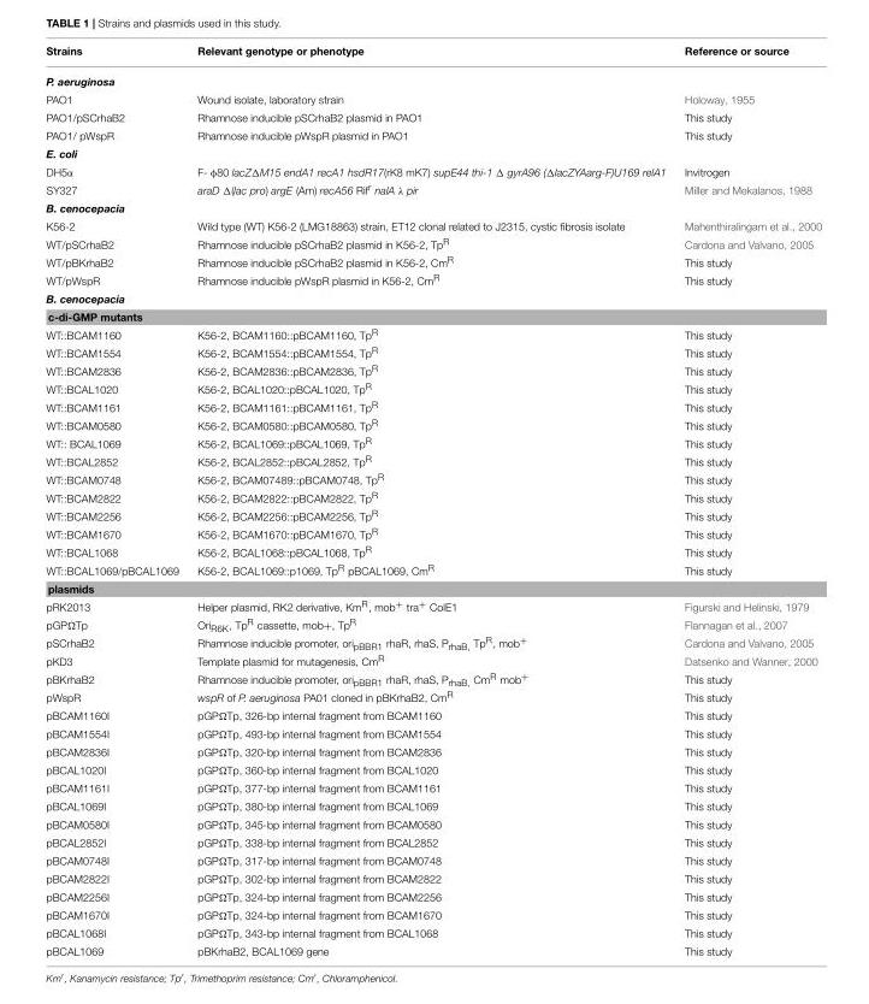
<table><thead><tr><td>Strains</td><td>Relevant genotype or phenotype</td><td>Reference or source</td></tr></thead><tbody><tr><td colspan="3">P. aeruginosa</td></tr><tr><td>PAO1</td><td>Wound isolate, laboratory strain</td><td>Holoway, 1955</td></tr><tr><td>PAO1/pSCrhaB2</td><td>Rhamnose inducible pSCrhaB2 plasmid in PAO1</td><td>This study</td></tr><tr><td>PAO1/ pWspR</td><td>Rhamnose inducible pWspR plasmid in PAO1</td><td>This study</td></tr><tr><td colspan="3">E. coli</td></tr><tr><td>DH5α</td><td>F- φ80 lacZΔM15 endA1 recA1 hsdR17(rK8 mK7) supE44 thi-1 Δ gyrA96 (ΔlacZYAarg-F)U169 relA1</td><td>Invitrogen</td></tr><tr><td>SY327</td><td>araD Δ(lac pro) argE (Am) recA56 Rif<sup>r</sup> nalA λ pir</td><td>Miller and Mekalanos, 1988</td></tr><tr><td colspan="3">B. cenocepacia</td></tr><tr><td>K56-2</td><td>Wild type (WT) K56-2 (LMG18863) strain, ET12 clonal related to J2315, cystic fibrosis isolate</td><td>Mahenthiralingam et al., 2000</td></tr><tr><td>WT/pSCrhaB2</td><td>Rhamnose inducible pSCrhaB2 plasmid in K56-2, Tp<sup>R</sup></td><td>Cardona and Valvano, 2005</td></tr><tr><td>WT/pBKrhaB2</td><td>Rhamnose inducible pSCrhaB2 plasmid in K56-2, Cm<sup>R</sup></td><td>This study</td></tr><tr><td>WT/pWspR</td><td>Rhamnose inducible pWspR plasmid in K56-2, Cm<sup>R</sup></td><td>This study</td></tr><tr><td colspan="3">B. cenocepacia</td></tr><tr><td colspan="3">c-di-GMP mutants</td></tr><tr><td>WT::BCAM1160</td><td>K56-2, BCAM1160::pBCAM1160, Tp<sup>R</sup></td><td>This study</td></tr><tr><td>WT::BCAM1554</td><td>K56-2, BCAM1554::pBCAM1554, Tp<sup>R</sup></td><td>This study</td></tr><tr><td>WT::BCAM2836</td><td>K56-2, BCAM2836::pBCAM2836, Tp<sup>R</sup></td><td>This study</td></tr><tr><td>WT::BCAL1020</td><td>K56-2, BCAL1020::pBCAL1020, Tp<sup>R</sup></td><td>This study</td></tr><tr><td>WT::BCAM1161</td><td>K56-2, BCAM1161::pBCAM1161, Tp<sup>R</sup></td><td>This study</td></tr><tr><td>WT::BCAM0580</td><td>K56-2, BCAM0580::pBCAM0580, Tp<sup>R</sup></td><td>This study</td></tr><tr><td>WT:: BCAL1069</td><td>K56-2, BCAL1069::pBCAL1069, Tp<sup>R</sup></td><td>This study</td></tr><tr><td>WT::BCAL2852</td><td>K56-2, BCAL2852::pBCAL2852, Tp<sup>R</sup></td><td>This study</td></tr><tr><td>WT::BCAM0748</td><td>K56-2, BCAM07489::pBCAM0748, Tp<sup>R</sup></td><td>This study</td></tr><tr><td>WT::BCAM2822</td><td>K56-2, BCAM2822::pBCAM2822, Tp<sup>R</sup></td><td>This study</td></tr><tr><td>WT::BCAM2256</td><td>K56-2, BCAM2256::pBCAM2256, Tp<sup>R</sup></td><td>This study</td></tr><tr><td>WT::BCAM1670</td><td>K56-2, BCAM1670::pBCAM1670, Tp<sup>R</sup></td><td>This study</td></tr><tr><td>WT::BCAL1068</td><td>K56-2, BCAL1068::pBCAL1068, Tp<sup>R</sup></td><td>This study</td></tr><tr><td>WT::BCAL1069/pBCAL1069</td><td>K56-2, BCAL1069::p1069, Tp<sup>R</sup> pBCAL1069, Cm<sup>R</sup></td><td>This study</td></tr><tr><td colspan="3">plasmids</td></tr><tr><td>pRK2013</td><td>Helper plasmid, RK2 derivative, Km<sup>R</sup>, mob<sup>+</sup> tra<sup>+</sup> ColE1</td><td>Figurski and Helinski, 1979</td></tr><tr><td>pGPΩTp</td><td>Ori<sub>R6K</sub>, Tp<sup>R</sup> cassette, mob+, Tp<sup>R</sup></td><td>Flannagan et al., 2007</td></tr><tr><td>pSCrhaB2</td><td>Rhamnose inducible promoter, ori<sub>pBBR1</sub> rhaR, rhaS, P<sub>rhaB</sub>, Tp<sup>R</sup>, mob<sup>+</sup></td><td>Cardona and Valvano, 2005</td></tr><tr><td>pKD3</td><td>Template plasmid for mutagenesis, Cm<sup>R</sup></td><td>Datsenko and Wanner, 2000</td></tr><tr><td>pBKrhaB2</td><td>Rhamnose inducible promoter, ori<sub>pBBR1</sub> rhaR, rhaS, P<sub>rhaB</sub>, Cm<sup>R</sup> mob<sup>+</sup></td><td>This study</td></tr><tr><td>pWspR</td><td>wspR of P. aeruginosa PA01 cloned in pBKrhaB2, Cm<sup>R</sup></td><td>This study</td></tr><tr><td>pBCAM1160I</td><td>pGPΩTp, 326-bp internal fragment from BCAM1160</td><td>This study</td></tr><tr><td>pBCAM1554I</td><td>pGPΩTp, 493-bp internal fragment from BCAM1554</td><td>This study</td></tr><tr><td>pBCAM2836I</td><td>pGPΩTp, 320-bp internal fragment from BCAM2836</td><td>This study</td></tr><tr><td>pBCAL1020I</td><td>pGPΩTp, 360-bp internal fragment from BCAL1020</td><td>This study</td></tr><tr><td>pBCAM1161I</td><td>pGPΩTp, 377-bp internal fragment from BCAM1161</td><td>This study</td></tr><tr><td>pBCAL1069I</td><td>pGPΩTp, 380-bp internal fragment from BCAL1069</td><td>This study</td></tr><tr><td>pBCAM0580I</td><td>pGPΩTp, 345-bp internal fragment from BCAM0580</td><td>This study</td></tr><tr><td>pBCAL2852I</td><td>pGPΩTp, 338-bp internal fragment from BCAL2852</td><td>This study</td></tr><tr><td>pBCAM0748I</td><td>pGPΩTp, 317-bp internal fragment from BCAM0748</td><td>This study</td></tr><tr><td>pBCAM2822I</td><td>pGPΩTp, 302-bp internal fragment from BCAM2822</td><td>This study</td></tr><tr><td>pBCAM2256I</td><td>pGPΩTp, 324-bp internal fragment from BCAM2256</td><td>This study</td></tr><tr><td>pBCAM1670I</td><td>pGPΩTp, 324-bp internal fragment from BCAM1670</td><td>This study</td></tr><tr><td>pBCAL1068I</td><td>pGPΩTp, 343-bp internal fragment from BCAL1068</td><td>This study</td></tr><tr><td>pBCAL1069</td><td>pBKrhaB2, BCAL1069 gene</td><td>This study</td></tr></tbody></table>